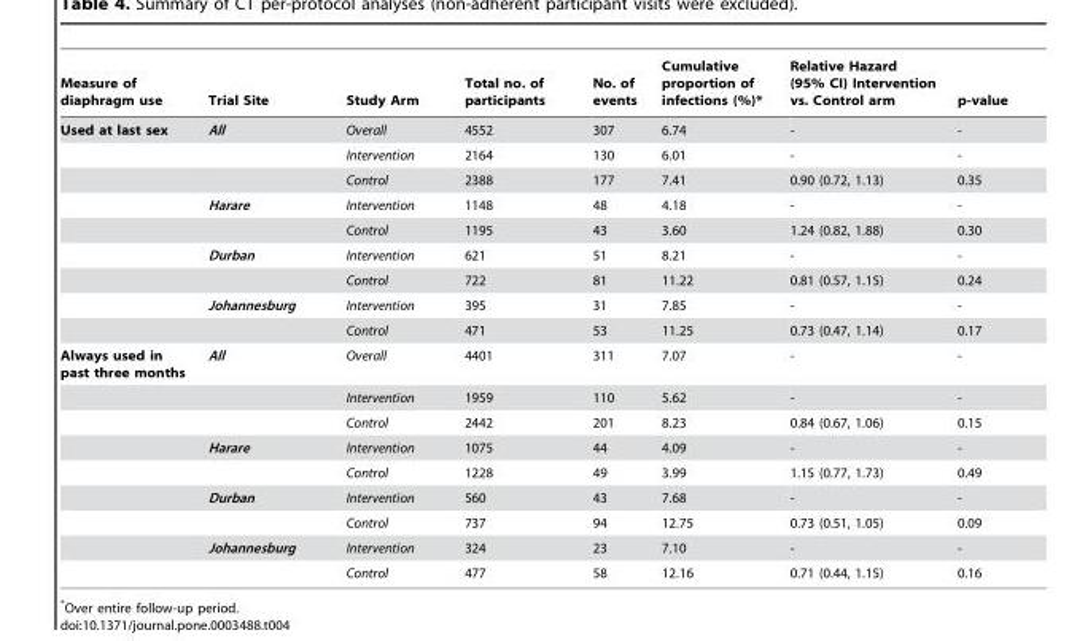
<table><thead><tr><td>Measure of diaphragm use</td><td>Trial Site</td><td>Study Arm</td><td>Total no. of participants</td><td>No. of events</td><td>Cumulative proportion of infections (%)*</td><td>Relative Hazard (95% CI) Intervention vs. Control arm</td><td>p-value</td></tr></thead><tbody><tr><td rowspan="9">Used at last sex</td><td>All</td><td>Overall</td><td>4552</td><td>307</td><td>6.74</td><td>-</td><td>-</td></tr><tr><td></td><td>Intervention</td><td>2164</td><td>130</td><td>6.01</td><td>-</td><td>-</td></tr><tr><td></td><td>Control</td><td>2388</td><td>177</td><td>7.41</td><td>0.90 (0.72, 1.13)</td><td>0.35</td></tr><tr><td>Harare</td><td>Intervention</td><td>1148</td><td>48</td><td>4.18</td><td>-</td><td>-</td></tr><tr><td></td><td>Control</td><td>1195</td><td>43</td><td>3.60</td><td>1.24 (0.82, 1.88)</td><td>0.30</td></tr><tr><td>Durban</td><td>Intervention</td><td>621</td><td>51</td><td>8.21</td><td>-</td><td>-</td></tr><tr><td></td><td>Control</td><td>722</td><td>81</td><td>11.22</td><td>0.81 (0.57, 1.15)</td><td>0.24</td></tr><tr><td>Johannesburg</td><td>Intervention</td><td>395</td><td>31</td><td>7.85</td><td>-</td><td>-</td></tr><tr><td></td><td>Control</td><td>471</td><td>53</td><td>11.25</td><td>0.73 (0.47, 1.14)</td><td>0.17</td></tr><tr><td rowspan="9">Always used in past three months</td><td>All</td><td>Overall</td><td>4401</td><td>311</td><td>7.07</td><td>-</td><td>-</td></tr><tr><td></td><td>Intervention</td><td>1959</td><td>110</td><td>5.62</td><td>-</td><td>-</td></tr><tr><td></td><td>Control</td><td>2442</td><td>201</td><td>8.23</td><td>0.84 (0.67, 1.06)</td><td>0.15</td></tr><tr><td>Harare</td><td>Intervention</td><td>1075</td><td>44</td><td>4.09</td><td>-</td><td>-</td></tr><tr><td></td><td>Control</td><td>1228</td><td>49</td><td>3.99</td><td>1.15 (0.77, 1.73)</td><td>0.49</td></tr><tr><td>Durban</td><td>Intervention</td><td>560</td><td>43</td><td>7.68</td><td>-</td><td>-</td></tr><tr><td></td><td>Control</td><td>737</td><td>94</td><td>12.75</td><td>0.73 (0.51, 1.05)</td><td>0.09</td></tr><tr><td>Johannesburg</td><td>Intervention</td><td>324</td><td>23</td><td>7.10</td><td>-</td><td>-</td></tr><tr><td></td><td>Control</td><td>477</td><td>58</td><td>12.16</td><td>0.71 (0.44, 1.15)</td><td>0.16</td></tr></tbody></table>